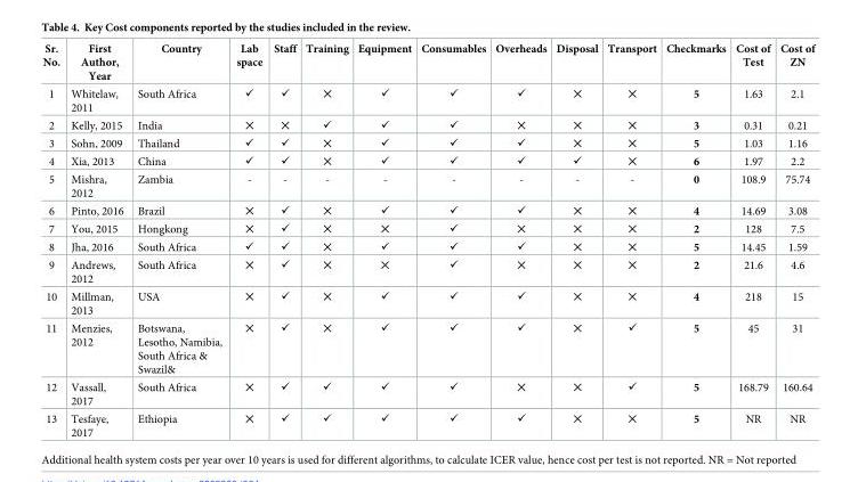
<table><thead><tr><td>Sr. No.</td><td>First Author, Year</td><td>Country</td><td>Lab space</td><td>Staff</td><td>Training</td><td>Equipment</td><td>Consumables</td><td>Overheads</td><td>Disposal</td><td>Transport</td><td>Checkmarks</td><td>Cost of Test</td><td>Cost of ZN</td></tr></thead><tbody><tr><td>1</td><td>Whitelaw, 2011</td><td>South Africa</td><td>✓</td><td>✓</td><td>✕</td><td>✓</td><td>✓</td><td>✓</td><td>✕</td><td>✕</td><td>5</td><td>1.63</td><td>2.1</td></tr><tr><td>2</td><td>Kelly, 2015</td><td>India</td><td>✕</td><td>✕</td><td>✓</td><td>✓</td><td>✓</td><td>✕</td><td>✕</td><td>✕</td><td>3</td><td>0.31</td><td>0.21</td></tr><tr><td>3</td><td>Sohn, 2009</td><td>Thailand</td><td>✓</td><td>✓</td><td>✕</td><td>✓</td><td>✓</td><td>✓</td><td>✕</td><td>✕</td><td>5</td><td>1.03</td><td>1.16</td></tr><tr><td>4</td><td>Xia, 2013</td><td>China</td><td>✓</td><td>✓</td><td>✕</td><td>✓</td><td>✓</td><td>✓</td><td>✓</td><td>✕</td><td>6</td><td>1.97</td><td>2.2</td></tr><tr><td>5</td><td>Mishra, 2012</td><td>Zambia</td><td>-</td><td>-</td><td>-</td><td>-</td><td>-</td><td>-</td><td>-</td><td>-</td><td>0</td><td>108.9</td><td>75.74</td></tr><tr><td>6</td><td>Pinto, 2016</td><td>Brazil</td><td>✕</td><td>✓</td><td>✕</td><td>✓</td><td>✓</td><td>✓</td><td>✕</td><td>✕</td><td>4</td><td>14.69</td><td>3.08</td></tr><tr><td>7</td><td>You, 2015</td><td>Hongkong</td><td>✕</td><td>✓</td><td>✕</td><td>✕</td><td>✓</td><td>✕</td><td>✕</td><td>✕</td><td>2</td><td>128</td><td>7.5</td></tr><tr><td>8</td><td>Jha, 2016</td><td>South Africa</td><td>✓</td><td>✓</td><td>✕</td><td>✓</td><td>✓</td><td>✓</td><td>✕</td><td>✕</td><td>5</td><td>14.45</td><td>1.59</td></tr><tr><td>9</td><td>Andrews, 2012</td><td>South Africa</td><td>✕</td><td>✓</td><td>✕</td><td>✕</td><td>✓</td><td>✕</td><td>✕</td><td>✕</td><td>2</td><td>21.6</td><td>4.6</td></tr><tr><td>10</td><td>Millman, 2013</td><td>USA</td><td>✕</td><td>✓</td><td>✕</td><td>✓</td><td>✓</td><td>✓</td><td>✕</td><td>✕</td><td>4</td><td>218</td><td>15</td></tr><tr><td>11</td><td>Menzies, 2012</td><td>Botswana, Lesotho, Namibia, South Africa &amp; Swazil&amp;</td><td>✕</td><td>✓</td><td>✕</td><td>✓</td><td>✓</td><td>✓</td><td>✕</td><td>✓</td><td>5</td><td>45</td><td>31</td></tr><tr><td>12</td><td>Vassall, 2017</td><td>South Africa</td><td>✕</td><td>✓</td><td>✓</td><td>✓</td><td>✓</td><td>✕</td><td>✕</td><td>✓</td><td>5</td><td>168.79</td><td>160.64</td></tr><tr><td>13</td><td>Tesfaye, 2017</td><td>Ethiopia</td><td>✕</td><td>✓</td><td>✓</td><td>✓</td><td>✓</td><td>✓</td><td>✕</td><td>✕</td><td>5</td><td>NR</td><td>NR</td></tr></tbody></table>